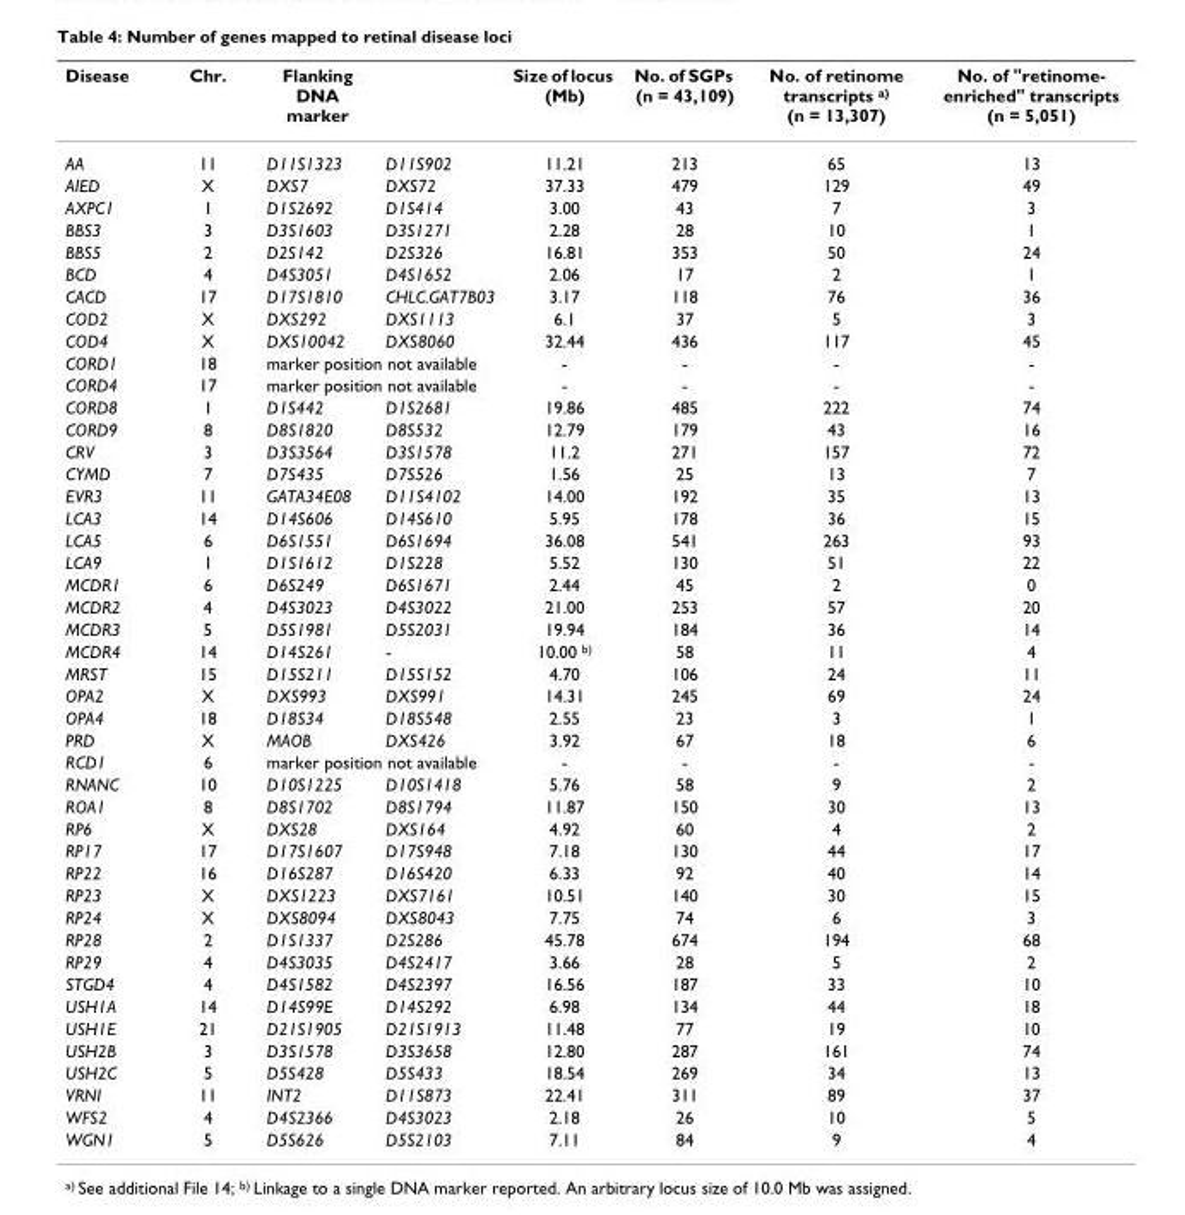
<table><thead><tr><td>Disease</td><td>Chr.</td><td>Flanking DNA marker</td><td></td><td>Size of locus (Mb)</td><td>No. of SGPs (n = 43,109)</td><td>No. of retinome transcripts <sup>a)</sup> (n = 13,307)</td><td>No. of &quot;retinome- enriched&quot; transcripts (n = 5,051)</td></tr></thead><tbody><tr><td>AA</td><td>11</td><td>D11S1323</td><td>D11S902</td><td>11.21</td><td>213</td><td>65</td><td>13</td></tr><tr><td>AIED</td><td>X</td><td>DXS7</td><td>DXS72</td><td>37.33</td><td>479</td><td>129</td><td>49</td></tr><tr><td>AXPC1</td><td>1</td><td>D1S2692</td><td>D1S414</td><td>3.00</td><td>43</td><td>7</td><td>3</td></tr><tr><td>BBS3</td><td>3</td><td>D3S1603</td><td>D3S1271</td><td>2.28</td><td>28</td><td>10</td><td>1</td></tr><tr><td>BBS5</td><td>2</td><td>D2S142</td><td>D2S326</td><td>16.81</td><td>353</td><td>50</td><td>24</td></tr><tr><td>BCD</td><td>4</td><td>D4S3051</td><td>D4S1652</td><td>2.06</td><td>17</td><td>2</td><td>1</td></tr><tr><td>CACD</td><td>17</td><td>D17S1810</td><td>CHLC.GAT7B03</td><td>3.17</td><td>118</td><td>76</td><td>36</td></tr><tr><td>COD2</td><td>X</td><td>DXS292</td><td>DXS1113</td><td>6.1</td><td>37</td><td>5</td><td>3</td></tr><tr><td>COD4</td><td>X</td><td>DXS10042</td><td>DXS8060</td><td>32.44</td><td>436</td><td>117</td><td>45</td></tr><tr><td>CORD1</td><td>18</td><td colspan="2">marker position not available</td><td>-</td><td>-</td><td>-</td><td>-</td></tr><tr><td>CORD4</td><td>17</td><td colspan="2">marker position not available</td><td>-</td><td>-</td><td>-</td><td>-</td></tr><tr><td>CORD8</td><td>1</td><td>D1S442</td><td>D1S2681</td><td>19.86</td><td>485</td><td>222</td><td>74</td></tr><tr><td>CORD9</td><td>8</td><td>D8S1820</td><td>D8S532</td><td>12.79</td><td>179</td><td>43</td><td>16</td></tr><tr><td>CRV</td><td>3</td><td>D3S3564</td><td>D3S1578</td><td>11.2</td><td>271</td><td>157</td><td>72</td></tr><tr><td>CYMD</td><td>7</td><td>D7S435</td><td>D7S526</td><td>1.56</td><td>25</td><td>13</td><td>7</td></tr><tr><td>EVR3</td><td>11</td><td>GATA34E08</td><td>D11S4102</td><td>14.00</td><td>192</td><td>35</td><td>13</td></tr><tr><td>LCA3</td><td>14</td><td>D14S606</td><td>D14S610</td><td>5.95</td><td>178</td><td>36</td><td>15</td></tr><tr><td>LCA5</td><td>6</td><td>D6S1551</td><td>D6S1694</td><td>36.08</td><td>541</td><td>263</td><td>93</td></tr><tr><td>LCA9</td><td>1</td><td>D1S1612</td><td>D1S228</td><td>5.52</td><td>130</td><td>51</td><td>22</td></tr><tr><td>MCDR1</td><td>6</td><td>D6S249</td><td>D6S1671</td><td>2.44</td><td>45</td><td>2</td><td>0</td></tr><tr><td>MCDR2</td><td>4</td><td>D4S3023</td><td>D4S3022</td><td>21.00</td><td>253</td><td>57</td><td>20</td></tr><tr><td>MCDR3</td><td>5</td><td>D5S1981</td><td>D5S2031</td><td>19.94</td><td>184</td><td>36</td><td>14</td></tr><tr><td>MCDR4</td><td>14</td><td>D14S261</td><td>-</td><td>10.00 <sup>b)</sup></td><td>58</td><td>11</td><td>4</td></tr><tr><td>MRST</td><td>15</td><td>D15S211</td><td>D15S152</td><td>4.70</td><td>106</td><td>24</td><td>11</td></tr><tr><td>OPA2</td><td>X</td><td>DXS993</td><td>DXS991</td><td>14.31</td><td>245</td><td>69</td><td>24</td></tr><tr><td>OPA4</td><td>18</td><td>D18S34</td><td>D18S548</td><td>2.55</td><td>23</td><td>3</td><td>1</td></tr><tr><td>PRD</td><td>X</td><td>MAOB</td><td>DXS426</td><td>3.92</td><td>67</td><td>18</td><td>6</td></tr><tr><td>RCD1</td><td>6</td><td colspan="2">marker position not available</td><td>-</td><td>-</td><td>-</td><td>-</td></tr><tr><td>RNANC</td><td>10</td><td>D10S1225</td><td>D10S1418</td><td>5.76</td><td>58</td><td>9</td><td>2</td></tr><tr><td>ROA1</td><td>8</td><td>D8S1702</td><td>D8S1794</td><td>11.87</td><td>150</td><td>30</td><td>13</td></tr><tr><td>RP6</td><td>X</td><td>DXS28</td><td>DXS164</td><td>4.92</td><td>60</td><td>4</td><td>2</td></tr><tr><td>RP17</td><td>17</td><td>D17S1607</td><td>D17S948</td><td>7.18</td><td>130</td><td>44</td><td>17</td></tr><tr><td>RP22</td><td>16</td><td>D16S287</td><td>D16S420</td><td>6.33</td><td>92</td><td>40</td><td>14</td></tr><tr><td>RP23</td><td>X</td><td>DXS1223</td><td>DXS7161</td><td>10.51</td><td>140</td><td>30</td><td>15</td></tr><tr><td>RP24</td><td>X</td><td>DXS8094</td><td>DXS8043</td><td>7.75</td><td>74</td><td>6</td><td>3</td></tr><tr><td>RP28</td><td>2</td><td>D1S1337</td><td>D2S286</td><td>45.78</td><td>674</td><td>194</td><td>68</td></tr><tr><td>RP29</td><td>4</td><td>D4S3035</td><td>D4S2417</td><td>3.66</td><td>28</td><td>5</td><td>2</td></tr><tr><td>STGD4</td><td>4</td><td>D4S1582</td><td>D4S2397</td><td>16.56</td><td>187</td><td>33</td><td>10</td></tr><tr><td>USH1A</td><td>14</td><td>D14S99E</td><td>D14S292</td><td>6.98</td><td>134</td><td>44</td><td>18</td></tr><tr><td>USH1E</td><td>21</td><td>D21S1905</td><td>D21S1913</td><td>11.48</td><td>77</td><td>19</td><td>10</td></tr><tr><td>USH2B</td><td>3</td><td>D3S1578</td><td>D3S3658</td><td>12.80</td><td>287</td><td>161</td><td>74</td></tr><tr><td>USH2C</td><td>5</td><td>D5S428</td><td>D5S433</td><td>18.54</td><td>269</td><td>34</td><td>13</td></tr><tr><td>VRNI</td><td>11</td><td>INT2</td><td>D11S873</td><td>22.41</td><td>311</td><td>89</td><td>37</td></tr><tr><td>WFS2</td><td>4</td><td>D4S2366</td><td>D4S3023</td><td>2.18</td><td>26</td><td>10</td><td>5</td></tr><tr><td>WGN1</td><td>5</td><td>D5S626</td><td>D5S2103</td><td>7.11</td><td>84</td><td>9</td><td>4</td></tr></tbody></table>